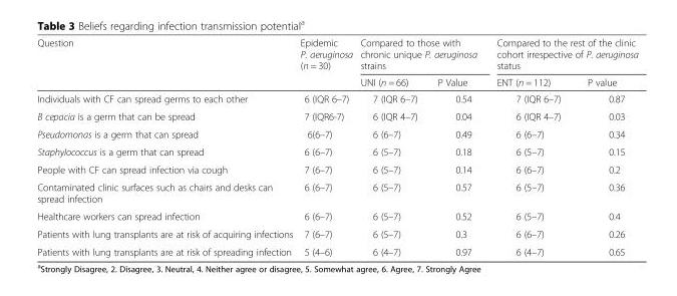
<table><thead><tr><td rowspan="2">Question</td><td rowspan="2">Epidemic P. aeruginosa (n = 30)</td><td colspan="2">Compared to those with chronic unique P. aeruginosa strains</td><td colspan="2">Compared to the rest of the clinic cohort irrespective of P. aeruginosa status</td></tr><tr><td>UNI (n = 66)</td><td>P Value</td><td>ENT (n = 112)</td><td>P value</td></tr></thead><tbody><tr><td>Individuals with CF can spread germs to each other</td><td>6 (IQR 6–7)</td><td>7 (IQR 6–7)</td><td>0.54</td><td>7 (IQR 6–7)</td><td>0.87</td></tr><tr><td>B cepacia is a germ that can be spread</td><td>7 (IQR6-7)</td><td>6 (IQR 4–7)</td><td>0.04</td><td>6 (IQR 4–7)</td><td>0.03</td></tr><tr><td>Pseudomonas is a germ that can spread</td><td>6(6–7)</td><td>6 (6–7)</td><td>0.49</td><td>6 (6–7)</td><td>0.34</td></tr><tr><td>Staphylococcus is a germ that can spread</td><td>6 (6–7)</td><td>6 (5–7)</td><td>0.18</td><td>6 (5–7)</td><td>0.15</td></tr><tr><td>People with CF can spread infection via cough</td><td>7 (6–7)</td><td>6 (5–7)</td><td>0.14</td><td>6 (6–7)</td><td>0.2</td></tr><tr><td>Contaminated clinic surfaces such as chairs and desks can spread infection</td><td>6 (6–7)</td><td>6 (5–7)</td><td>0.57</td><td>6 (5–7)</td><td>0.36</td></tr><tr><td>Healthcare workers can spread infection</td><td>6 (6–7)</td><td>6 (5–7)</td><td>0.52</td><td>6 (5–7)</td><td>0.4</td></tr><tr><td>Patients with lung transplants are at risk of acquiring infections</td><td>7 (6–7)</td><td>6 (5–7)</td><td>0.3</td><td>6 (6–7)</td><td>0.26</td></tr><tr><td>Patients with lung transplants are at risk of spreading infection</td><td>5 (4–6)</td><td>6 (4–7)</td><td>0.97</td><td>6 (4–7)</td><td>0.65</td></tr></tbody></table>